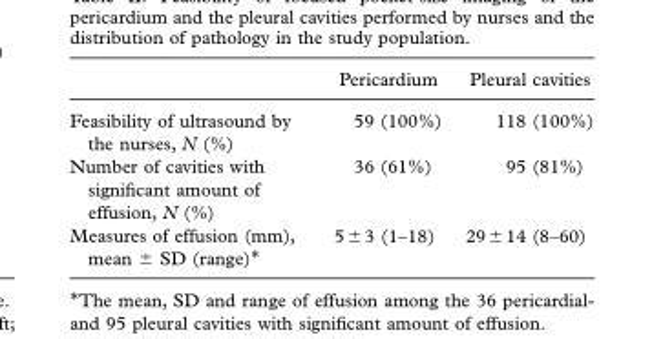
<table><thead><tr><td></td><td>Pericardium</td><td>Pleural cavities</td></tr></thead><tbody><tr><td>Feasibility of ultrasound by the nurses, N (%)</td><td>59 (100%)</td><td>118 (100%)</td></tr><tr><td>Number of cavities with signifi cant amount of effusion, N (%)</td><td>36 (61%)</td><td>95 (81%)</td></tr><tr><td>Measures of effusion (mm), mean ± SD (range) *</td><td>5 ± 3 (1 – 18)</td><td>29 ± 14 (8 – 60)</td></tr></tbody></table>